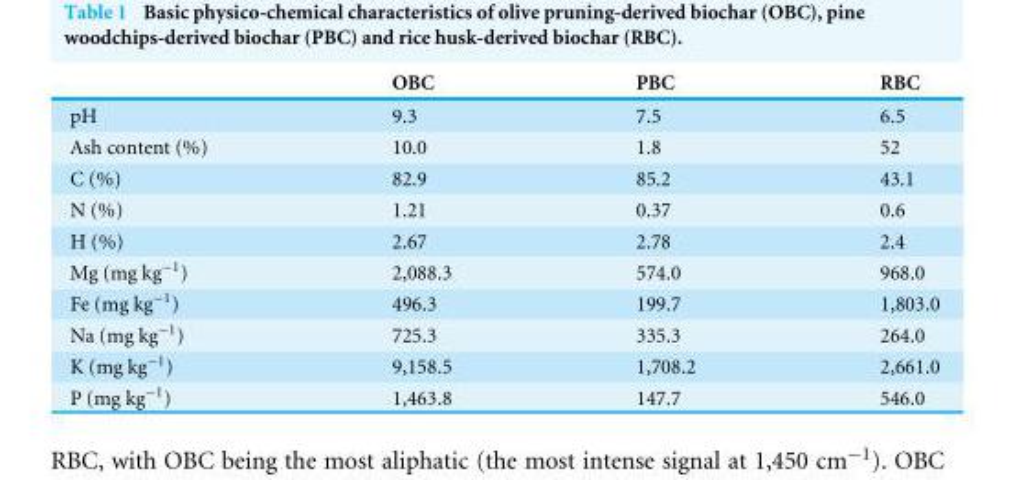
<table><thead><tr><td></td><td>OBC</td><td>PBC</td><td>RBC</td></tr></thead><tbody><tr><td>pH</td><td>9.3</td><td>7.5</td><td>6.5</td></tr><tr><td>Ash content (%)</td><td>10.0</td><td>1.8</td><td>52</td></tr><tr><td>C (%)</td><td>82.9</td><td>85.2</td><td>43.1</td></tr><tr><td>N (%)</td><td>1.21</td><td>0.37</td><td>0.6</td></tr><tr><td>H (%)</td><td>2.67</td><td>2.78</td><td>2.4</td></tr><tr><td>Mg (mg kg<sup>−1</sup>)</td><td>2,088.3</td><td>574.0</td><td>968.0</td></tr><tr><td>Fe (mg kg<sup>−1</sup>)</td><td>496.3</td><td>199.7</td><td>1,803.0</td></tr><tr><td>Na (mg kg<sup>−1</sup>)</td><td>725.3</td><td>335.3</td><td>264.0</td></tr><tr><td>K (mg kg<sup>−1</sup>)</td><td>9,158.5</td><td>1,708.2</td><td>2,661.0</td></tr><tr><td>P (mg kg<sup>−1</sup>)</td><td>1,463.8</td><td>147.7</td><td>546.0</td></tr></tbody></table>